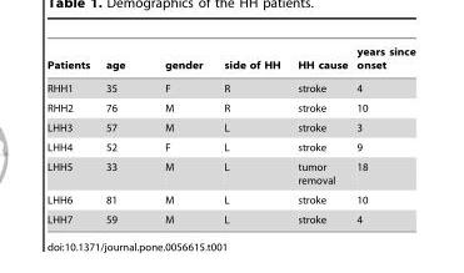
<table><thead><tr><td>Patients</td><td>age</td><td>gender</td><td>side of HH</td><td>HH cause</td><td>years since onset</td></tr></thead><tbody><tr><td>RHH1</td><td>35</td><td>F</td><td>R</td><td>stroke</td><td>4</td></tr><tr><td>RHH2</td><td>76</td><td>M</td><td>R</td><td>stroke</td><td>10</td></tr><tr><td>LHH3</td><td>57</td><td>M</td><td>L</td><td>stroke</td><td>3</td></tr><tr><td>LHH4</td><td>52</td><td>F</td><td>L</td><td>stroke</td><td>9</td></tr><tr><td>LHH5</td><td>33</td><td>M</td><td>L</td><td>tumor removal</td><td>18</td></tr><tr><td>LHH6</td><td>81</td><td>M</td><td>L</td><td>stroke</td><td>10</td></tr><tr><td>LHH7</td><td>59</td><td>M</td><td>L</td><td>stroke</td><td>4</td></tr></tbody></table>